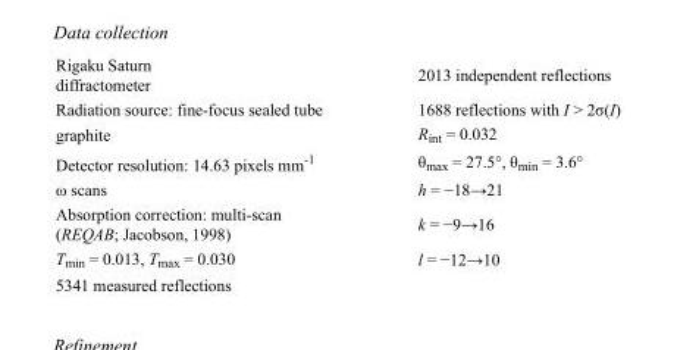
<table><tbody><tr><td>Rigaku Saturn diffractometer</td><td>2013 independent reflections</td></tr><tr><td>Radiation source: fine-focus sealed tube</td><td>1688 reflections with I &gt; 2σ(I)</td></tr><tr><td>graphite</td><td>R<sub>int</sub> = 0.032</td></tr><tr><td>Detector resolution: 14.63 pixels mm<sup>-1</sup></td><td>θ<sub>max</sub> = 27.5°, θ<sub>min</sub> = 3.6°</td></tr><tr><td>ω scans</td><td>h = −18→21</td></tr><tr><td>Absorption correction: multi-scan (REQAB; Jacobson, 1998)</td><td>k = −9→16</td></tr><tr><td>T<sub>min</sub> = 0.013, T<sub>max</sub> = 0.030</td><td>l = −12→10</td></tr><tr><td>5341 measured reflections</td><td></td></tr></tbody></table>